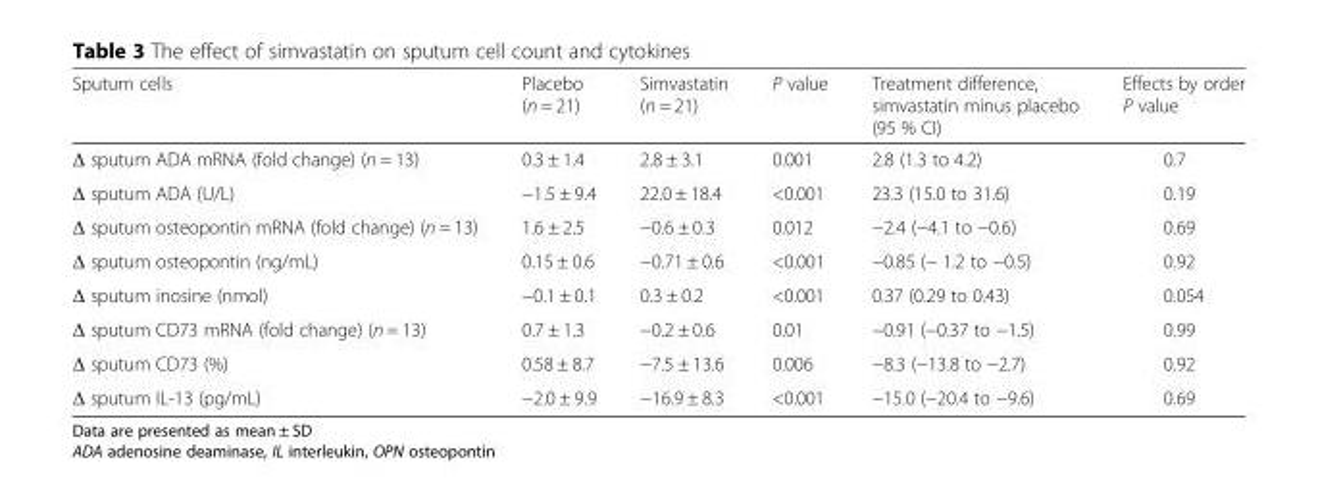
<table><thead><tr><td>Sputum cells</td><td>Placebo (n = 21)</td><td>Simvastatin (n = 21)</td><td>P value</td><td>Treatment difference, simvastatin minus placebo (95 % CI)</td><td>Effects by order P value</td></tr></thead><tbody><tr><td>Δ sputum ADA mRNA (fold change) (n = 13)</td><td>0.3 ± 1.4</td><td>2.8 ± 3.1</td><td>0.001</td><td>2.8 (1.3 to 4.2)</td><td>0.7</td></tr><tr><td>Δ sputum ADA (U/L)</td><td>−1.5 ± 9.4</td><td>22.0 ± 18.4</td><td>&lt;0.001</td><td>23.3 (15.0 to 31.6)</td><td>0.19</td></tr><tr><td>Δ sputum osteopontin mRNA (fold change) (n = 13)</td><td>1.6 ± 2.5</td><td>−0.6 ± 0.3</td><td>0.012</td><td>−2.4 (−4.1 to −0.6)</td><td>0.69</td></tr><tr><td>Δ sputum osteopontin (ng/mL)</td><td>0.15 ± 0.6</td><td>−0.71 ± 0.6</td><td>&lt;0.001</td><td>−0.85 (− 1.2 to −0.5)</td><td>0.92</td></tr><tr><td>Δ sputum inosine (nmol)</td><td>−0.1 ± 0.1</td><td>0.3 ± 0.2</td><td>&lt;0.001</td><td>0.37 (0.29 to 0.43)</td><td>0.054</td></tr><tr><td>Δ sputum CD73 mRNA (fold change) (n = 13)</td><td>0.7 ± 1.3</td><td>−0.2 ± 0.6</td><td>0.01</td><td>−0.91 (−0.37 to −1.5)</td><td>0.99</td></tr><tr><td>Δ sputum CD73 (%)</td><td>0.58 ± 8.7</td><td>−7.5 ± 13.6</td><td>0.006</td><td>−8.3 (−13.8 to −2.7)</td><td>0.92</td></tr><tr><td>Δ sputum IL-13 (pg/mL)</td><td>−2.0 ± 9.9</td><td>−16.9 ± 8.3</td><td>&lt;0.001</td><td>−15.0 (−20.4 to −9.6)</td><td>0.69</td></tr></tbody></table>